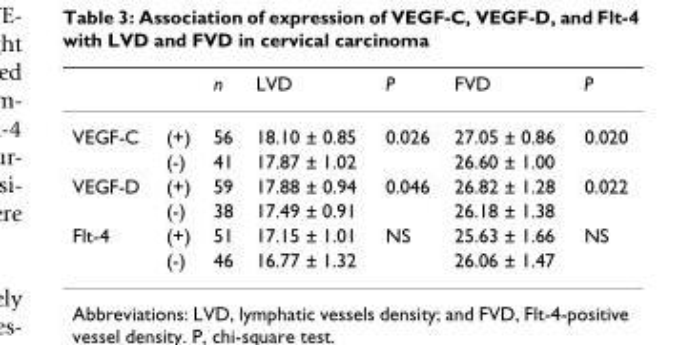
<table><thead><tr><td></td><td></td><td>n</td><td>LVD</td><td>P</td><td>FVD</td><td>P</td></tr></thead><tbody><tr><td rowspan="2">VEGF-C</td><td>(+)</td><td>56</td><td>18.10 ± 0.85</td><td>0.026</td><td>27.05 ± 0.86</td><td>0.020</td></tr><tr><td>(-)</td><td>41</td><td>17.87 ± 1.02</td><td></td><td>26.60 ± 1.00</td><td></td></tr><tr><td rowspan="2">VEGF-D</td><td>(+)</td><td>59</td><td>17.88 ± 0.94</td><td>0.046</td><td>26.82 ± 1.28</td><td>0.022</td></tr><tr><td>(-)</td><td>38</td><td>17.49 ± 0.91</td><td></td><td>26.18 ± 1.38</td><td></td></tr><tr><td rowspan="2">Flt-4</td><td>(+)</td><td>51</td><td>17.15 ± 1.01</td><td>NS</td><td>25.63 ± 1.66</td><td>NS</td></tr><tr><td>(-)</td><td>46</td><td>16.77 ± 1.32</td><td></td><td>26.06 ± 1.47</td><td></td></tr></tbody></table>